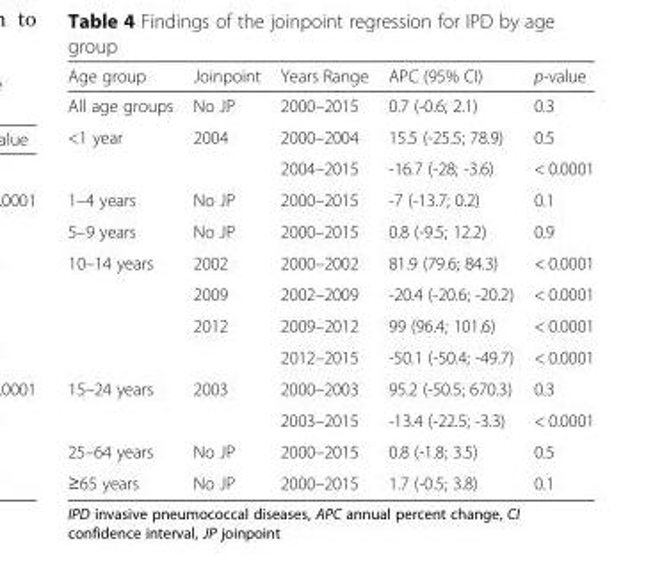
<table><thead><tr><td>Age group</td><td>Joinpoint</td><td>Years Range</td><td>APC (95% CI)</td><td>p-value</td></tr></thead><tbody><tr><td>All age groups</td><td>No JP</td><td>2000–2015</td><td>0.7 (-0.6; 2.1)</td><td>0.3</td></tr><tr><td rowspan="2">&lt;1 year</td><td>2004</td><td>2000–2004</td><td>15.5 (-25.5; 78.9)</td><td>0.5</td></tr><tr><td></td><td>2004–2015</td><td>-16.7 (-28; -3.6)</td><td>&lt; 0.0001</td></tr><tr><td>1–4 years</td><td>No JP</td><td>2000–2015</td><td>-7 (-13.7; 0.2)</td><td>0.1</td></tr><tr><td>5–9 years</td><td>No JP</td><td>2000–2015</td><td>0.8 (-9.5; 12.2)</td><td>0.9</td></tr><tr><td rowspan="4">10–14 years</td><td>2002</td><td>2000–2002</td><td>81.9 (79.6; 84.3)</td><td>&lt; 0.0001</td></tr><tr><td>2009</td><td>2002–2009</td><td>-20.4 (-20.6; -20.2)</td><td>&lt; 0.0001</td></tr><tr><td>2012</td><td>2009–2012</td><td>99 (96.4; 101.6)</td><td>&lt; 0.0001</td></tr><tr><td></td><td>2012–2015</td><td>-50.1 (-50.4; -49.7)</td><td>&lt; 0.0001</td></tr><tr><td rowspan="2">15–24 years</td><td>2003</td><td>2000–2003</td><td>95.2 (-50.5; 670.3)</td><td>0.3</td></tr><tr><td></td><td>2003–2015</td><td>-13.4 (-22.5; -3.3)</td><td>&lt; 0.0001</td></tr><tr><td>25–64 years</td><td>No JP</td><td>2000–2015</td><td>0.8 (-1.8; 3.5)</td><td>0.5</td></tr><tr><td>≥65 years</td><td>No JP</td><td>2000–2015</td><td>1.7 (-0.5; 3.8)</td><td>0.1</td></tr></tbody></table>